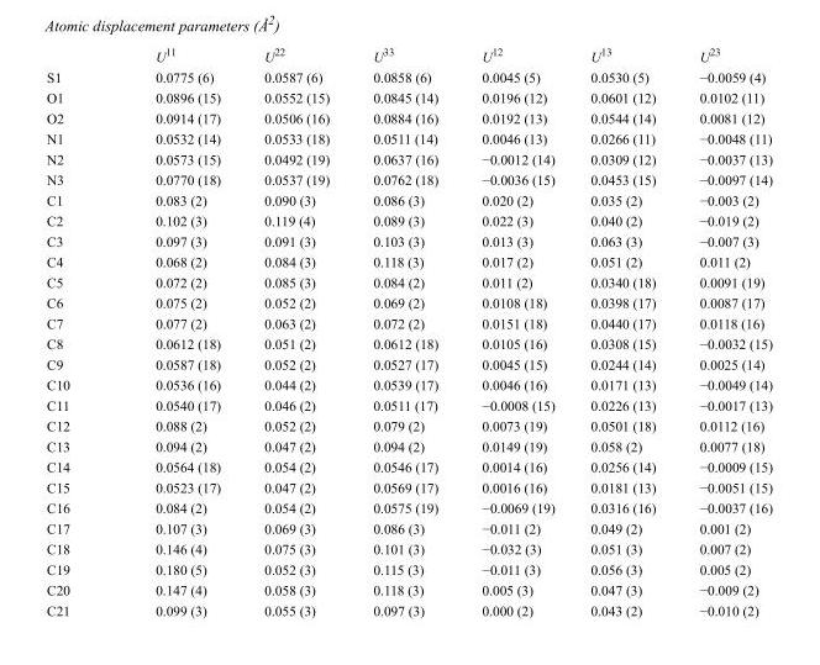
<table><thead><tr><td></td><td>U<sup>11</sup></td><td>U<sup>22</sup></td><td>U<sup>33</sup></td><td>U<sup>12</sup></td><td>U<sup>13</sup></td><td>U<sup>23</sup></td></tr></thead><tbody><tr><td>S1</td><td>0.0775 (6)</td><td>0.0587 (6)</td><td>0.0858 (6)</td><td>0.0045 (5)</td><td>0.0530 (5)</td><td>−0.0059 (4)</td></tr><tr><td>O1</td><td>0.0896 (15)</td><td>0.0552 (15)</td><td>0.0845 (14)</td><td>0.0196 (12)</td><td>0.0601 (12)</td><td>0.0102 (11)</td></tr><tr><td>O2</td><td>0.0914 (17)</td><td>0.0506 (16)</td><td>0.0884 (16)</td><td>0.0192 (13)</td><td>0.0544 (14)</td><td>0.0081 (12)</td></tr><tr><td>N1</td><td>0.0532 (14)</td><td>0.0533 (18)</td><td>0.0511 (14)</td><td>0.0046 (13)</td><td>0.0266 (11)</td><td>−0.0048 (11)</td></tr><tr><td>N2</td><td>0.0573 (15)</td><td>0.0492 (19)</td><td>0.0637 (16)</td><td>−0.0012 (14)</td><td>0.0309 (12)</td><td>−0.0037 (13)</td></tr><tr><td>N3</td><td>0.0770 (18)</td><td>0.0537 (19)</td><td>0.0762 (18)</td><td>−0.0036 (15)</td><td>0.0453 (15)</td><td>−0.0097 (14)</td></tr><tr><td>C1</td><td>0.083 (2)</td><td>0.090 (3)</td><td>0.086 (3)</td><td>0.020 (2)</td><td>0.035 (2)</td><td>−0.003 (2)</td></tr><tr><td>C2</td><td>0.102 (3)</td><td>0.119 (4)</td><td>0.089 (3)</td><td>0.022 (3)</td><td>0.040 (2)</td><td>−0.019 (2)</td></tr><tr><td>C3</td><td>0.097 (3)</td><td>0.091 (3)</td><td>0.103 (3)</td><td>0.013 (3)</td><td>0.063 (3)</td><td>−0.007 (3)</td></tr><tr><td>C4</td><td>0.068 (2)</td><td>0.084 (3)</td><td>0.118 (3)</td><td>0.017 (2)</td><td>0.051 (2)</td><td>0.011 (2)</td></tr><tr><td>C5</td><td>0.072 (2)</td><td>0.085 (3)</td><td>0.084 (2)</td><td>0.011 (2)</td><td>0.0340 (18)</td><td>0.0091 (19)</td></tr><tr><td>C6</td><td>0.075 (2)</td><td>0.052 (2)</td><td>0.069 (2)</td><td>0.0108 (18)</td><td>0.0398 (17)</td><td>0.0087 (17)</td></tr><tr><td>C7</td><td>0.077 (2)</td><td>0.063 (2)</td><td>0.072 (2)</td><td>0.0151 (18)</td><td>0.0440 (17)</td><td>0.0118 (16)</td></tr><tr><td>C8</td><td>0.0612 (18)</td><td>0.051 (2)</td><td>0.0612 (18)</td><td>0.0105 (16)</td><td>0.0308 (15)</td><td>−0.0032 (15)</td></tr><tr><td>C9</td><td>0.0587 (18)</td><td>0.052 (2)</td><td>0.0527 (17)</td><td>0.0045 (15)</td><td>0.0244 (14)</td><td>0.0025 (14)</td></tr><tr><td>C10</td><td>0.0536 (16)</td><td>0.044 (2)</td><td>0.0539 (17)</td><td>0.0046 (16)</td><td>0.0171 (13)</td><td>−0.0049 (14)</td></tr><tr><td>C11</td><td>0.0540 (17)</td><td>0.046 (2)</td><td>0.0511 (17)</td><td>−0.0008 (15)</td><td>0.0226 (13)</td><td>−0.0017 (13)</td></tr><tr><td>C12</td><td>0.088 (2)</td><td>0.052 (2)</td><td>0.079 (2)</td><td>0.0073 (19)</td><td>0.0501 (18)</td><td>0.0112 (16)</td></tr><tr><td>C13</td><td>0.094 (2)</td><td>0.047 (2)</td><td>0.094 (2)</td><td>0.0149 (19)</td><td>0.058 (2)</td><td>0.0077 (18)</td></tr><tr><td>C14</td><td>0.0564 (18)</td><td>0.054 (2)</td><td>0.0546 (17)</td><td>0.0014 (16)</td><td>0.0256 (14)</td><td>−0.0009 (15)</td></tr><tr><td>C15</td><td>0.0523 (17)</td><td>0.047 (2)</td><td>0.0569 (17)</td><td>0.0016 (16)</td><td>0.0181 (13)</td><td>−0.0051 (15)</td></tr><tr><td>C16</td><td>0.084 (2)</td><td>0.054 (2)</td><td>0.0575 (19)</td><td>−0.0069 (19)</td><td>0.0316 (16)</td><td>−0.0037 (16)</td></tr><tr><td>C17</td><td>0.107 (3)</td><td>0.069 (3)</td><td>0.086 (3)</td><td>−0.011 (2)</td><td>0.049 (2)</td><td>0.001 (2)</td></tr><tr><td>C18</td><td>0.146 (4)</td><td>0.075 (3)</td><td>0.101 (3)</td><td>−0.032 (3)</td><td>0.051 (3)</td><td>0.007 (2)</td></tr><tr><td>C19</td><td>0.180 (5)</td><td>0.052 (3)</td><td>0.115 (3)</td><td>−0.011 (3)</td><td>0.056 (3)</td><td>0.005 (2)</td></tr><tr><td>C20</td><td>0.147 (4)</td><td>0.058 (3)</td><td>0.118 (3)</td><td>0.005 (3)</td><td>0.047 (3)</td><td>−0.009 (2)</td></tr><tr><td>C21</td><td>0.099 (3)</td><td>0.055 (3)</td><td>0.097 (3)</td><td>0.000 (2)</td><td>0.043 (2)</td><td>−0.010 (2)</td></tr></tbody></table>